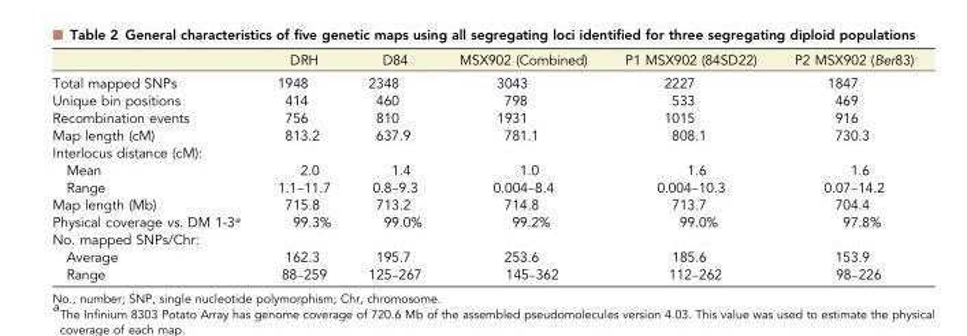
<table><thead><tr><td></td><td>DRH</td><td>D84</td><td>MSX902 (Combined)</td><td>P1 MSX902 (84SD22)</td><td>P2 MSX902 (Ber83)</td></tr></thead><tbody><tr><td>Total mapped SNPs</td><td>1948</td><td>2348</td><td>3043</td><td>2227</td><td>1847</td></tr><tr><td>Unique bin positions</td><td>414</td><td>460</td><td>798</td><td>533</td><td>469</td></tr><tr><td>Recombination events</td><td>756</td><td>810</td><td>1931</td><td>1015</td><td>916</td></tr><tr><td>Map length (cM)</td><td>813.2</td><td>637.9</td><td>781.1</td><td>808.1</td><td>730.3</td></tr><tr><td colspan="6">Interlocus distance (cM):</td></tr><tr><td>Mean</td><td>2.0</td><td>1.4</td><td>1.0</td><td>1.6</td><td>1.6</td></tr><tr><td>Range</td><td>1.1–11.7</td><td>0.8–9.3</td><td>0.004–8.4</td><td>0.004–10.3</td><td>0.07–14.2</td></tr><tr><td>Map length (Mb)</td><td>715.8</td><td>713.2</td><td>714.8</td><td>713.7</td><td>704.4</td></tr><tr><td>Physical coverage vs. DM 1-3<sup>a</sup></td><td>99.3%</td><td>99.0%</td><td>99.2%</td><td>99.0%</td><td>97.8%</td></tr><tr><td colspan="6">No. mapped SNPs/Chr:</td></tr><tr><td>Average</td><td>162.3</td><td>195.7</td><td>253.6</td><td>185.6</td><td>153.9</td></tr><tr><td>Range</td><td>88–259</td><td>125–267</td><td>145–362</td><td>112–262</td><td>98–226</td></tr></tbody></table>